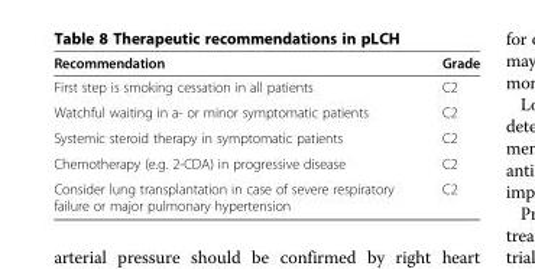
<table><thead><tr><td>Recommendation</td><td>Grade</td></tr></thead><tbody><tr><td>First step is smoking cessation in all patients</td><td>C2</td></tr><tr><td>Watchful waiting in a- or minor symptomatic patients</td><td>C2</td></tr><tr><td>Systemic steroid therapy in symptomatic patients</td><td>C2</td></tr><tr><td>Chemotherapy (e.g. 2-CDA) in progressive disease</td><td>C2</td></tr><tr><td>Consider lung transplantation in case of severe respiratory failure or major pulmonary hypertension</td><td>C2</td></tr></tbody></table>